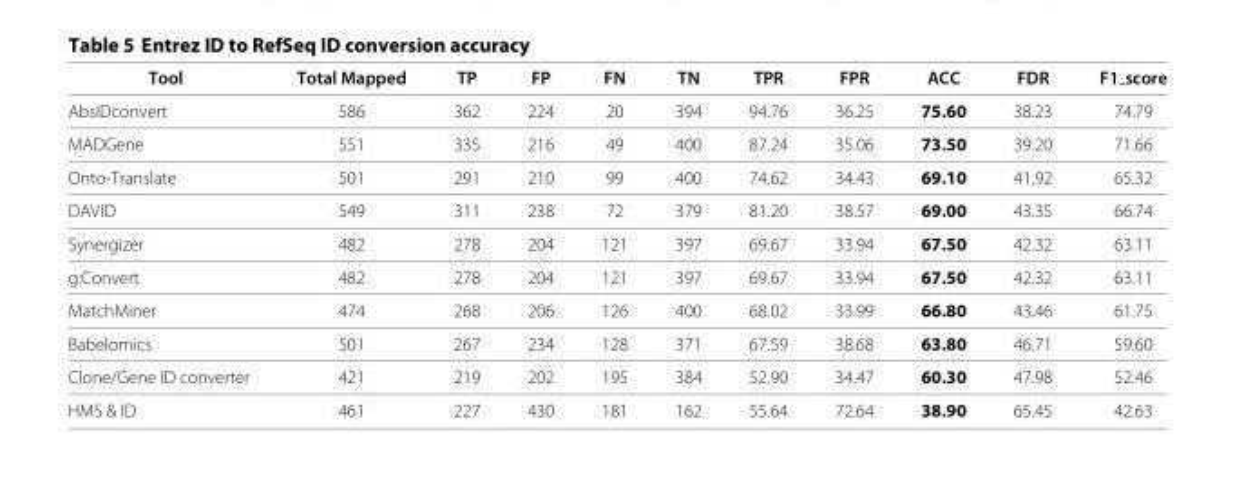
<table><thead><tr><td>Tool</td><td>Total Mapped</td><td>TP</td><td>FP</td><td>FN</td><td>TN</td><td>TPR</td><td>FPR</td><td>ACC</td><td>FDR</td><td>F1 score</td></tr></thead><tbody><tr><td>AbsIDconvert</td><td>586</td><td>362</td><td>224</td><td>20</td><td>394</td><td>94.76</td><td>36.25</td><td>75.60</td><td>38.23</td><td>74.79</td></tr><tr><td>MADGene</td><td>551</td><td>335</td><td>216</td><td>49</td><td>400</td><td>87.24</td><td>35.06</td><td>73.50</td><td>39.20</td><td>71.66</td></tr><tr><td>Onto-Translate</td><td>501</td><td>291</td><td>210</td><td>99</td><td>400</td><td>74.62</td><td>34.43</td><td>69.10</td><td>41.92</td><td>65.32</td></tr><tr><td>DAVID</td><td>549</td><td>311</td><td>238</td><td>72</td><td>379</td><td>81.20</td><td>38.57</td><td>69.00</td><td>43.35</td><td>66.74</td></tr><tr><td>Synergizer</td><td>482</td><td>278</td><td>204</td><td>121</td><td>397</td><td>69.67</td><td>33.94</td><td>67.50</td><td>42.32</td><td>63.11</td></tr><tr><td>g:Convert</td><td>482</td><td>278</td><td>204</td><td>121</td><td>397</td><td>69.67</td><td>33.94</td><td>67.50</td><td>42.32</td><td>63.11</td></tr><tr><td>MatchMiner</td><td>474</td><td>268</td><td>206</td><td>126</td><td>400</td><td>68.02</td><td>33.99</td><td>66.80</td><td>43.46</td><td>61.75</td></tr><tr><td>Babelomics</td><td>501</td><td>267</td><td>234</td><td>128</td><td>371</td><td>67.59</td><td>38.68</td><td>63.80</td><td>46.71</td><td>59.60</td></tr><tr><td>Clone/Gene ID converter</td><td>421</td><td>219</td><td>202</td><td>195</td><td>384</td><td>52.90</td><td>34.47</td><td>60.30</td><td>47.98</td><td>52.46</td></tr><tr><td>HMS &amp; ID</td><td>461</td><td>227</td><td>430</td><td>181</td><td>162</td><td>55.64</td><td>72.64</td><td>38.90</td><td>65.45</td><td>42.63</td></tr></tbody></table>